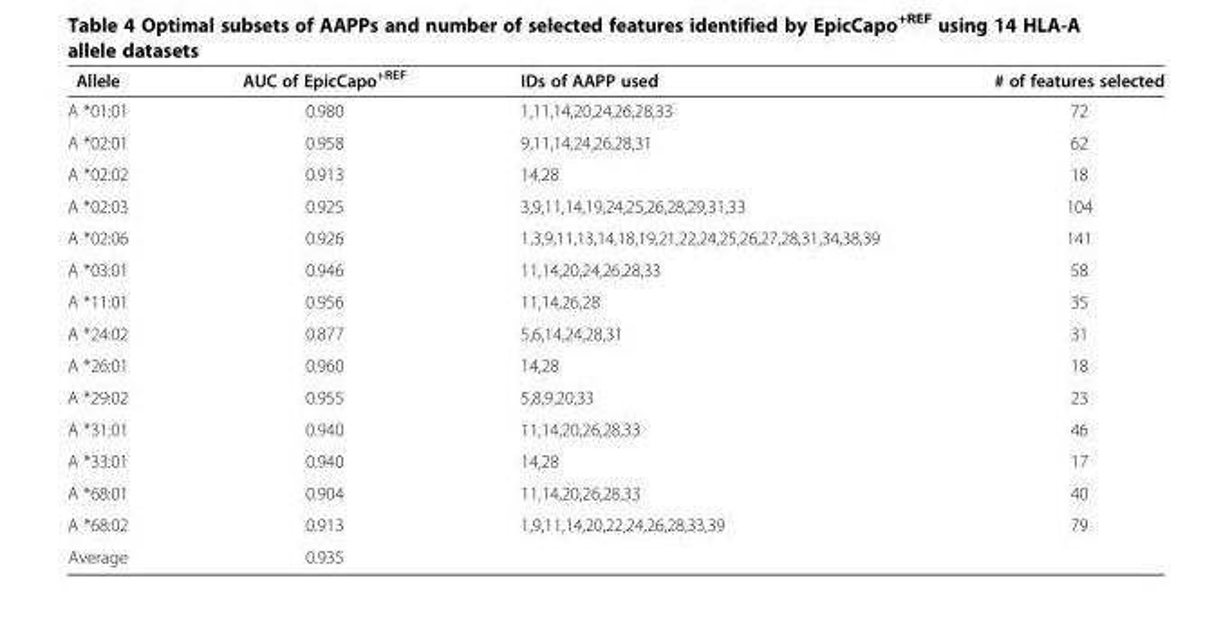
<table><thead><tr><td>Allele</td><td>AUC of EpicCapo<sup>+REF</sup></td><td>IDs of AAPP used</td><td># of features selected</td></tr></thead><tbody><tr><td>A *01:01</td><td>0.980</td><td>1,11,14,20,24,26,28,33</td><td>72</td></tr><tr><td>A *02:01</td><td>0.958</td><td>9,11,14,24,26,28,31</td><td>62</td></tr><tr><td>A *02:02</td><td>0.913</td><td>14,28</td><td>18</td></tr><tr><td>A *02:03</td><td>0.925</td><td>3,9,11,14,19,24,25,26,28,29,31,33</td><td>104</td></tr><tr><td>A *02:06</td><td>0.926</td><td>1,3,9,11,13,14,18,19,21,22,24,25,26,27,28,31,34,38,39</td><td>141</td></tr><tr><td>A *03:01</td><td>0.946</td><td>11,14,20,24,26,28,33</td><td>58</td></tr><tr><td>A *11:01</td><td>0.956</td><td>11,14,26,28</td><td>35</td></tr><tr><td>A *24:02</td><td>0.877</td><td>5,6,14,24,28,31</td><td>31</td></tr><tr><td>A *26:01</td><td>0.960</td><td>14,28</td><td>18</td></tr><tr><td>A *29:02</td><td>0.955</td><td>5,8,9,20,33</td><td>23</td></tr><tr><td>A *31:01</td><td>0.940</td><td>11,14,20,26,28,33</td><td>46</td></tr><tr><td>A *33:01</td><td>0.940</td><td>14,28</td><td>17</td></tr><tr><td>A *68:01</td><td>0.904</td><td>11,14,20,26,28,33</td><td>40</td></tr><tr><td>A *68:02</td><td>0.913</td><td>1,9,11,14,20,22,24,26,28,33,39</td><td>79</td></tr><tr><td>Average</td><td>0.935</td><td></td><td></td></tr></tbody></table>